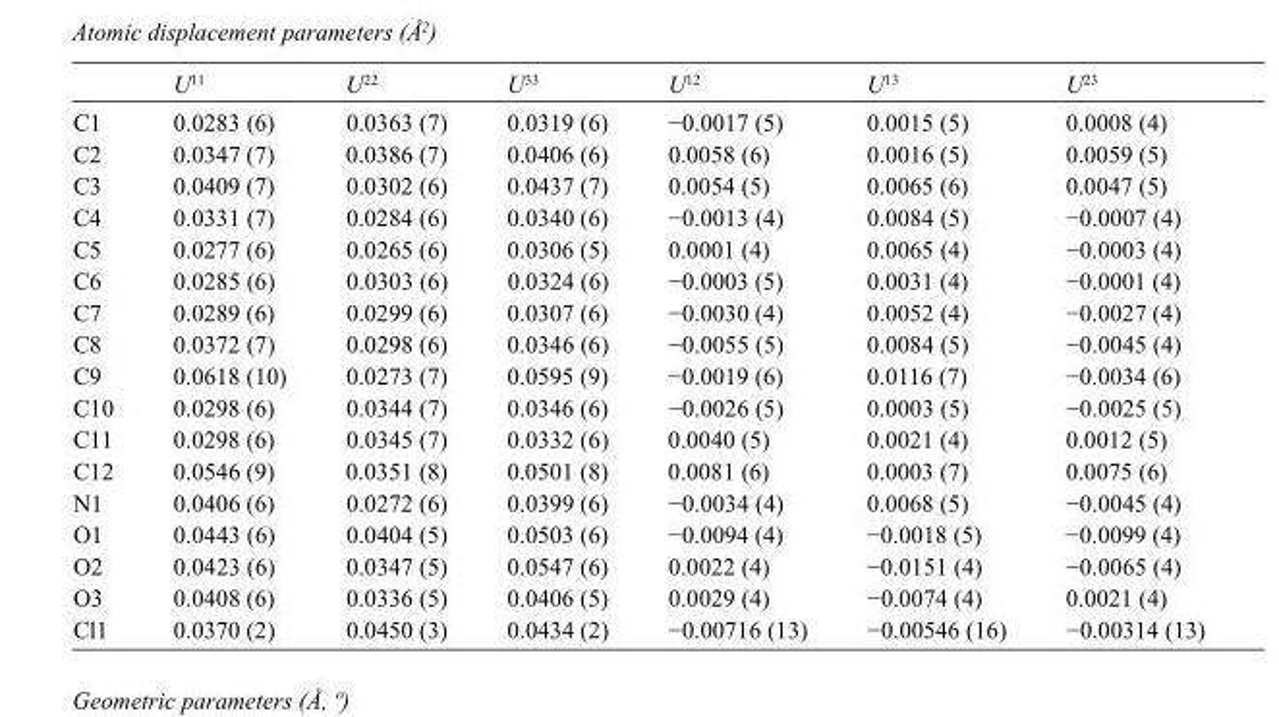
<table><thead><tr><td></td><td>U<sup>11</sup></td><td>U<sup>22</sup></td><td>U<sup>33</sup></td><td>U<sup>12</sup></td><td>U<sup>13</sup></td><td>U<sup>23</sup></td></tr></thead><tbody><tr><td>C1</td><td>0.0283 (6)</td><td>0.0363 (7)</td><td>0.0319 (6)</td><td>−0.0017 (5)</td><td>0.0015 (5)</td><td>0.0008 (4)</td></tr><tr><td>C2</td><td>0.0347 (7)</td><td>0.0386 (7)</td><td>0.0406 (6)</td><td>0.0058 (6)</td><td>0.0016 (5)</td><td>0.0059 (5)</td></tr><tr><td>C3</td><td>0.0409 (7)</td><td>0.0302 (6)</td><td>0.0437 (7)</td><td>0.0054 (5)</td><td>0.0065 (6)</td><td>0.0047 (5)</td></tr><tr><td>C4</td><td>0.0331 (7)</td><td>0.0284 (6)</td><td>0.0340 (6)</td><td>−0.0013 (4)</td><td>0.0084 (5)</td><td>−0.0007 (4)</td></tr><tr><td>C5</td><td>0.0277 (6)</td><td>0.0265 (6)</td><td>0.0306 (5)</td><td>0.0001 (4)</td><td>0.0065 (4)</td><td>−0.0003 (4)</td></tr><tr><td>C6</td><td>0.0285 (6)</td><td>0.0303 (6)</td><td>0.0324 (6)</td><td>−0.0003 (5)</td><td>0.0031 (4)</td><td>−0.0001 (4)</td></tr><tr><td>C7</td><td>0.0289 (6)</td><td>0.0299 (6)</td><td>0.0307 (6)</td><td>−0.0030 (4)</td><td>0.0052 (4)</td><td>−0.0027 (4)</td></tr><tr><td>C8</td><td>0.0372 (7)</td><td>0.0298 (6)</td><td>0.0346 (6)</td><td>−0.0055 (5)</td><td>0.0084 (5)</td><td>−0.0045 (4)</td></tr><tr><td>C9</td><td>0.0618 (10)</td><td>0.0273 (7)</td><td>0.0595 (9)</td><td>−0.0019 (6)</td><td>0.0116 (7)</td><td>−0.0034 (6)</td></tr><tr><td>C10</td><td>0.0298 (6)</td><td>0.0344 (7)</td><td>0.0346 (6)</td><td>−0.0026 (5)</td><td>0.0003 (5)</td><td>−0.0025 (5)</td></tr><tr><td>C11</td><td>0.0298 (6)</td><td>0.0345 (7)</td><td>0.0332 (6)</td><td>0.0040 (5)</td><td>0.0021 (4)</td><td>0.0012 (5)</td></tr><tr><td>C12</td><td>0.0546 (9)</td><td>0.0351 (8)</td><td>0.0501 (8)</td><td>0.0081 (6)</td><td>0.0003 (7)</td><td>0.0075 (6)</td></tr><tr><td>N1</td><td>0.0406 (6)</td><td>0.0272 (6)</td><td>0.0399 (6)</td><td>−0.0034 (4)</td><td>0.0068 (5)</td><td>−0.0045 (4)</td></tr><tr><td>O1</td><td>0.0443 (6)</td><td>0.0404 (5)</td><td>0.0503 (6)</td><td>−0.0094 (4)</td><td>−0.0018 (5)</td><td>−0.0099 (4)</td></tr><tr><td>O2</td><td>0.0423 (6)</td><td>0.0347 (5)</td><td>0.0547 (6)</td><td>0.0022 (4)</td><td>−0.0151 (4)</td><td>−0.0065 (4)</td></tr><tr><td>O3</td><td>0.0408 (6)</td><td>0.0336 (5)</td><td>0.0406 (5)</td><td>0.0029 (4)</td><td>−0.0074 (4)</td><td>0.0021 (4)</td></tr><tr><td>Cl1</td><td>0.0370 (2)</td><td>0.0450 (3)</td><td>0.0434 (2)</td><td>−0.00716 (13)</td><td>−0.00546 (16)</td><td>−0.00314 (13)</td></tr></tbody></table>